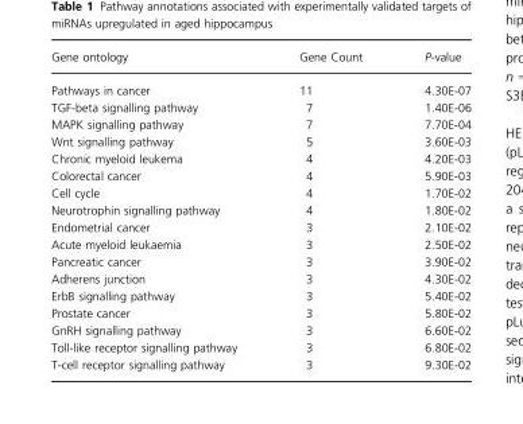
<table><thead><tr><td>Gene ontology</td><td>Gene Count</td><td>P-value</td></tr></thead><tbody><tr><td>Pathways in cancer</td><td>11</td><td>4.30E-07</td></tr><tr><td>TGF-beta signalling pathway</td><td>7</td><td>1.40E-06</td></tr><tr><td>MAPK signalling pathway</td><td>7</td><td>7.70E-04</td></tr><tr><td>Wnt signalling pathway</td><td>5</td><td>3.60E-03</td></tr><tr><td>Chronic myeloid leukema</td><td>4</td><td>4.20E-03</td></tr><tr><td>Colorectal cancer</td><td>4</td><td>5.90E-03</td></tr><tr><td>Cell cycle</td><td>4</td><td>1.70E-02</td></tr><tr><td>Neurotrophin signalling pathway</td><td>4</td><td>1.80E-02</td></tr><tr><td>Endometrial cancer</td><td>3</td><td>2.10E-02</td></tr><tr><td>Acute myeloid leukaemia</td><td>3</td><td>2.50E-02</td></tr><tr><td>Pancreatic cancer</td><td>3</td><td>3.90E-02</td></tr><tr><td>Adherens junction</td><td>3</td><td>4.30E-02</td></tr><tr><td>ErbB signalling pathway</td><td>3</td><td>5.40E-02</td></tr><tr><td>Prostate cancer</td><td>3</td><td>5.80E-02</td></tr><tr><td>GnRH signalling pathway</td><td>3</td><td>6.60E-02</td></tr><tr><td>Toll-like receptor signalling pathway</td><td>3</td><td>6.80E-02</td></tr><tr><td>T-cell receptor signalling pathway</td><td>3</td><td>9.30E-02</td></tr></tbody></table>